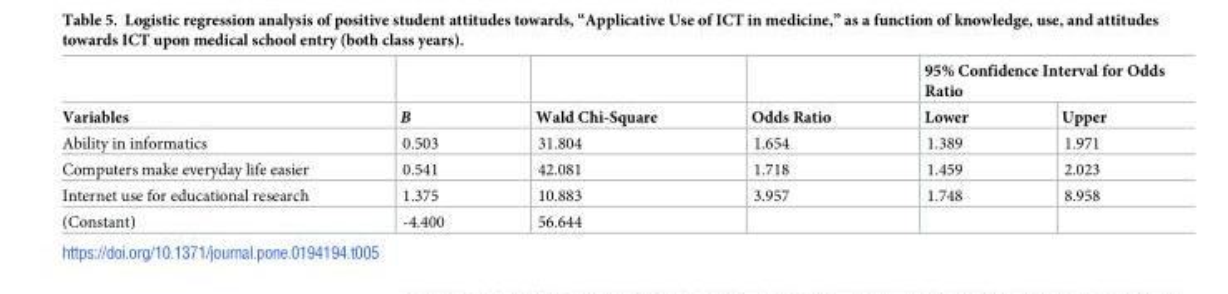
<table><thead><tr><td rowspan="2">Variables</td><td rowspan="2">B</td><td rowspan="2">Wald Chi-Square</td><td rowspan="2">Odds Ratio</td><td colspan="2">95% Confidence Interval for Odds Ratio</td></tr><tr><td>Lower</td><td>Upper</td></tr></thead><tbody><tr><td>Ability in informatics</td><td>0.503</td><td>31.804</td><td>1.654</td><td>1.389</td><td>1.971</td></tr><tr><td>Computers make everyday life easier</td><td>0.541</td><td>42.081</td><td>1.718</td><td>1.459</td><td>2.023</td></tr><tr><td>Internet use for educational research</td><td>1.375</td><td>10.883</td><td>3.957</td><td>1.748</td><td>8.958</td></tr><tr><td>(Constant)</td><td>-4.400</td><td>56.644</td><td></td><td></td><td></td></tr></tbody></table>